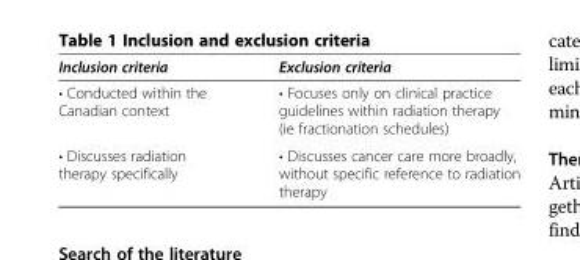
<table><thead><tr><td>Inclusion criteria</td><td>Exclusion criteria</td></tr></thead><tbody><tr><td>• Conducted within the Canadian context</td><td>• Focuses only on clinical practice guidelines within radiation therapy (ie fractionation schedules)</td></tr><tr><td>• Discusses radiation therapy specifically</td><td>• Discusses cancer care more broadly, without specific reference to radiation therapy</td></tr></tbody></table>